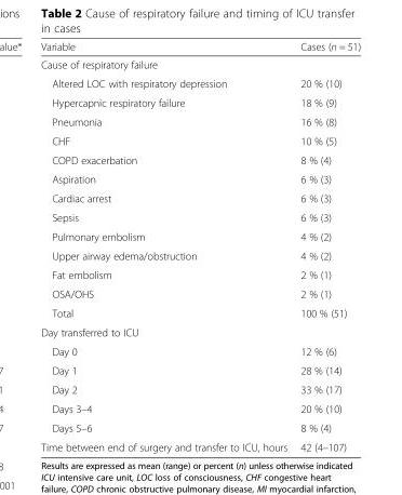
<table><thead><tr><td>Variable</td><td>Cases (n = 51)</td></tr></thead><tbody><tr><td colspan="2">Cause of respiratory failure</td></tr><tr><td>Altered LOC with respiratory depression</td><td>20 % (10)</td></tr><tr><td>Hypercapnic respiratory failure</td><td>18 % (9)</td></tr><tr><td>Pneumonia</td><td>16 % (8)</td></tr><tr><td>CHF</td><td>10 % (5)</td></tr><tr><td>COPD exacerbation</td><td>8 % (4)</td></tr><tr><td>Aspiration</td><td>6 % (3)</td></tr><tr><td>Cardiac arrest</td><td>6 % (3)</td></tr><tr><td>Sepsis</td><td>6 % (3)</td></tr><tr><td>Pulmonary embolism</td><td>4 % (2)</td></tr><tr><td>Upper airway edema/obstruction</td><td>4 % (2)</td></tr><tr><td>Fat embolism</td><td>2 % (1)</td></tr><tr><td>OSA/OHS</td><td>2 % (1)</td></tr><tr><td>Total</td><td>100 % (51)</td></tr><tr><td colspan="2">Day transferred to ICU</td></tr><tr><td>Day 0</td><td>12 % (6)</td></tr><tr><td>Day 1</td><td>28 % (14)</td></tr><tr><td>Day 2</td><td>33 % (17)</td></tr><tr><td>Days 3–4</td><td>20 % (10)</td></tr><tr><td>Days 5–6</td><td>8 % (4)</td></tr><tr><td>Time between end of surgery and transfer to ICU, hours</td><td>42 (4–107)</td></tr></tbody></table>